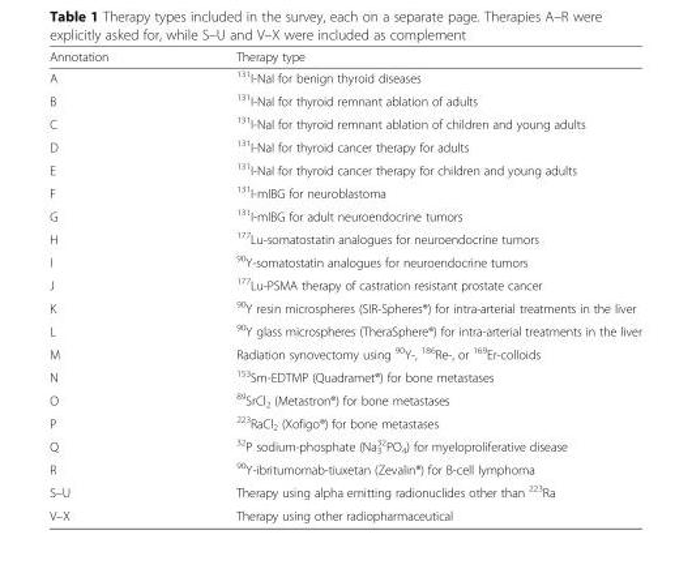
<table><thead><tr><td>Annotation</td><td>Therapy type</td></tr></thead><tbody><tr><td>A</td><td><sup>131</sup>I-NaI for benign thyroid diseases</td></tr><tr><td>B</td><td><sup>131</sup>I-NaI for thyroid remnant ablation of adults</td></tr><tr><td>C</td><td><sup>131</sup>I-NaI for thyroid remnant ablation of children and young adults</td></tr><tr><td>D</td><td><sup>131</sup>I-NaI for thyroid cancer therapy for adults</td></tr><tr><td>E</td><td><sup>131</sup>I-NaI for thyroid cancer therapy for children and young adults</td></tr><tr><td>F</td><td><sup>131</sup>I-mIBG for neuroblastoma</td></tr><tr><td>G</td><td><sup>131</sup>I-mIBG for adult neuroendocrine tumors</td></tr><tr><td>H</td><td><sup>177</sup>Lu-somatostatin analogues for neuroendocrine tumors</td></tr><tr><td>I</td><td><sup>90</sup>Y-somatostatin analogues for neuroendocrine tumors</td></tr><tr><td>J</td><td><sup>177</sup>Lu-PSMA therapy of castration resistant prostate cancer</td></tr><tr><td>K</td><td><sup>90</sup>Y resin microspheres (SIR-Spheres®) for intra-arterial treatments in the liver</td></tr><tr><td>L</td><td><sup>90</sup>Y glass microspheres (TheraSphere®) for intra-arterial treatments in the liver</td></tr><tr><td>M</td><td>Radiation synovectomy using <sup>90</sup>Y-, <sup>186</sup>Re-, or <sup>169</sup>Er-colloids</td></tr><tr><td>N</td><td><sup>153</sup>Sm-EDTMP (Quadramet®) for bone metastases</td></tr><tr><td>O</td><td><sup>89</sup>SrCl<sub>2</sub> (Metastron®) for bone metastases</td></tr><tr><td>P</td><td><sup>223</sup>RaCl<sub>2</sub> (Xofigo®) for bone metastases</td></tr><tr><td>Q</td><td><sup>32</sup>P sodium-phosphate (Na<sub>3</sub> <sup>32</sup>PO<sub>4</sub>) for myeloproliferative disease</td></tr><tr><td>R</td><td><sup>90</sup>Y-ibritumomab-tiuxetan (Zevalin®) for B-cell lymphoma</td></tr><tr><td>S–U</td><td>Therapy using alpha emitting radionuclides other than <sup>223</sup>Ra</td></tr><tr><td>V–X</td><td>Therapy using other radiopharmaceutical</td></tr></tbody></table>